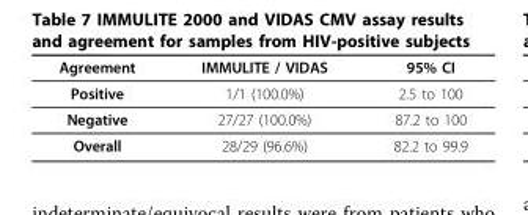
<table><thead><tr><td>Agreement</td><td>IMMULITE / VIDAS</td><td>95% CI</td></tr></thead><tbody><tr><td>Positive</td><td>1/1 (100.0%)</td><td>2.5 to 100</td></tr><tr><td>Negative</td><td>27/27 (100.0%)</td><td>87.2 to 100</td></tr><tr><td>Overall</td><td>28/29 (96.6%)</td><td>82.2 to 99.9</td></tr></tbody></table>